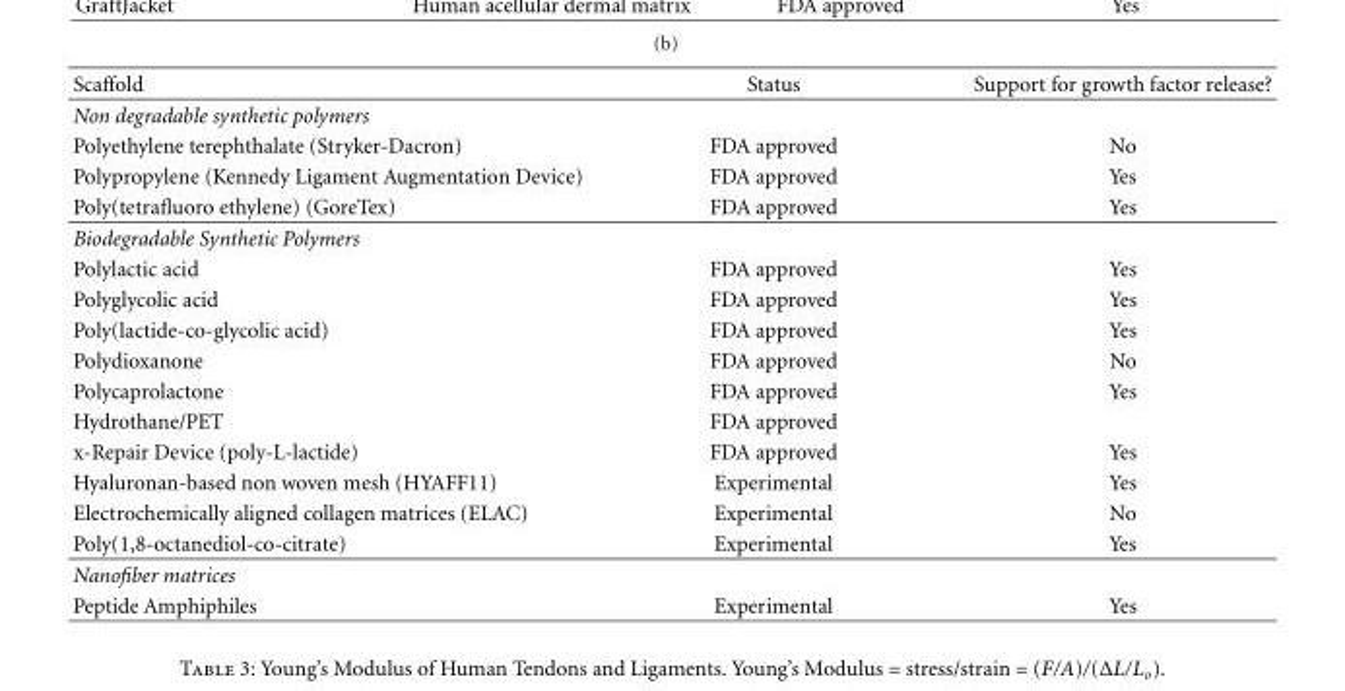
<table><thead><tr><td>Scaffold</td><td>Status</td><td>Support for growth factor release?</td></tr></thead><tbody><tr><td colspan="3">Non degradable synthetic polymers</td></tr><tr><td>Polyethylene terephthalate (Stryker-Dacron)</td><td>FDA approved</td><td>No</td></tr><tr><td>Polypropylene (Kennedy Ligament Augmentation Device)</td><td>FDA approved</td><td>Yes</td></tr><tr><td>Poly(tetrafluoro ethylene) (GoreTex)</td><td>FDA approved</td><td>Yes</td></tr><tr><td colspan="3">Biodegradable Synthetic Polymers</td></tr><tr><td>Polylactic acid</td><td>FDA approved</td><td>Yes</td></tr><tr><td>Polyglycolic acid</td><td>FDA approved</td><td>Yes</td></tr><tr><td>Poly(lactide-co-glycolic acid)</td><td>FDA approved</td><td>Yes</td></tr><tr><td>Polydioxanone</td><td>FDA approved</td><td>No</td></tr><tr><td>Polycaprolactone</td><td>FDA approved</td><td>Yes</td></tr><tr><td>Hydrothane/PET</td><td>FDA approved</td><td></td></tr><tr><td>x-Repair Device (poly-L-lactide)</td><td>FDA approved</td><td>Yes</td></tr><tr><td>Hyaluronan-based non woven mesh (HYAFF11)</td><td>Experimental</td><td>Yes</td></tr><tr><td>Electrochemically aligned collagen matrices (ELAC)</td><td>Experimental</td><td>No</td></tr><tr><td>Poly(1,8-octanediol-co-citrate)</td><td>Experimental</td><td>Yes</td></tr><tr><td colspan="3">Nanofiber matrices</td></tr><tr><td>Peptide Amphiphiles</td><td>Experimental</td><td>Yes</td></tr></tbody></table>